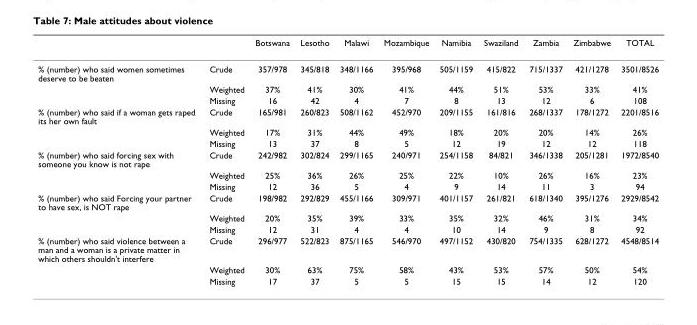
<table><thead><tr><td></td><td></td><td>Botswana</td><td>Lesotho</td><td>Malawi</td><td>Mozambique</td><td>Namibia</td><td>Swaziland</td><td>Zambia</td><td>Zimbabwe</td><td>TOTAL</td></tr></thead><tbody><tr><td rowspan="3">% (number) who said women sometimes deserve to be beaten</td><td>Crude</td><td>357/978</td><td>345/818</td><td>348/1166</td><td>395/968</td><td>505/1159</td><td>415/822</td><td>715/1337</td><td>421/1278</td><td>3501/8526</td></tr><tr><td>Weighted</td><td>37%</td><td>41%</td><td>30%</td><td>41%</td><td>44%</td><td>51%</td><td>53%</td><td>33%</td><td>41%</td></tr><tr><td>Missing</td><td>16</td><td>42</td><td>4</td><td>7</td><td>8</td><td>13</td><td>12</td><td>6</td><td>108</td></tr><tr><td rowspan="3">% (number) who said if a woman gets raped its her own fault</td><td>Crude</td><td>165/981</td><td>260/823</td><td>508/1162</td><td>452/970</td><td>209/1155</td><td>161/816</td><td>268/1337</td><td>178/1272</td><td>2201/8516</td></tr><tr><td>Weighted</td><td>17%</td><td>31%</td><td>44%</td><td>49%</td><td>18%</td><td>20%</td><td>20%</td><td>14%</td><td>26%</td></tr><tr><td>Missing</td><td>13</td><td>37</td><td>8</td><td>5</td><td>12</td><td>19</td><td>12</td><td>12</td><td>118</td></tr><tr><td rowspan="3">% (number) who said forcing sex with someone you know is not rape</td><td>Crude</td><td>242/982</td><td>302/824</td><td>299/1165</td><td>240/971</td><td>254/1158</td><td>84/821</td><td>346/1338</td><td>205/1281</td><td>1972/8540</td></tr><tr><td>Weighted</td><td>25%</td><td>36%</td><td>26%</td><td>25%</td><td>22%</td><td>10%</td><td>26%</td><td>16%</td><td>23%</td></tr><tr><td>Missing</td><td>12</td><td>36</td><td>5</td><td>4</td><td>9</td><td>14</td><td>11</td><td>3</td><td>94</td></tr><tr><td rowspan="3">% (number) who said Forcing your partner to have sex, is NOT rape</td><td>Crude</td><td>198/982</td><td>292/829</td><td>455/1166</td><td>309/971</td><td>401/1157</td><td>261/821</td><td>618/1340</td><td>395/1276</td><td>2929/8542</td></tr><tr><td>Weighted</td><td>20%</td><td>35%</td><td>39%</td><td>33%</td><td>35%</td><td>32%</td><td>46%</td><td>31%</td><td>34%</td></tr><tr><td>Missing</td><td>12</td><td>31</td><td>4</td><td>4</td><td>10</td><td>14</td><td>9</td><td>8</td><td>92</td></tr><tr><td rowspan="3">% (number) who said violence between a man and a woman is a private matter in which others shouldn&#x27;t interfere</td><td>Crude</td><td>296/977</td><td>522/823</td><td>875/1165</td><td>546/970</td><td>497/1152</td><td>430/820</td><td>754/1335</td><td>628/1272</td><td>4548/8514</td></tr><tr><td>Weighted</td><td>30%</td><td>63%</td><td>75%</td><td>58%</td><td>43%</td><td>53%</td><td>57%</td><td>50%</td><td>54%</td></tr><tr><td>Missing</td><td>17</td><td>37</td><td>5</td><td>5</td><td>15</td><td>15</td><td>14</td><td>12</td><td>120</td></tr></tbody></table>